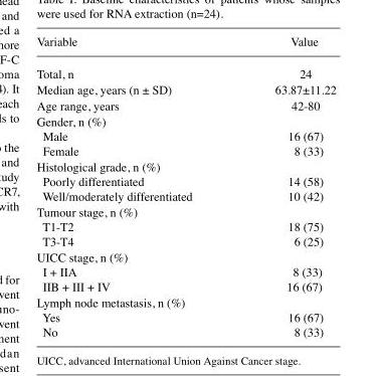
<table><thead><tr><td>Variable</td><td>Value</td></tr></thead><tbody><tr><td>Total, n</td><td>24</td></tr><tr><td>Median age, years (n ± SD)</td><td>63.87±11.22</td></tr><tr><td>Age range, years</td><td>42-80</td></tr><tr><td colspan="2">Gender, n (%)</td></tr><tr><td>Male</td><td>16 (67)</td></tr><tr><td>Female</td><td>8 (33)</td></tr><tr><td colspan="2">Histological grade, n (%)</td></tr><tr><td>Poorly differentiated</td><td>14 (58)</td></tr><tr><td>Well/moderately differentiated</td><td>10 (42)</td></tr><tr><td colspan="2">Tumour stage, n (%)</td></tr><tr><td>T1-T2</td><td>18 (75)</td></tr><tr><td>T3-T4</td><td>6 (25)</td></tr><tr><td colspan="2">UICC stage, n (%)</td></tr><tr><td>I + IIA</td><td>8 (33)</td></tr><tr><td>IIB + III + IV</td><td>16 (67)</td></tr><tr><td colspan="2">Lymph node metastasis, n (%)</td></tr><tr><td>Yes</td><td>16 (67)</td></tr><tr><td>No</td><td>8 (33)</td></tr></tbody></table>